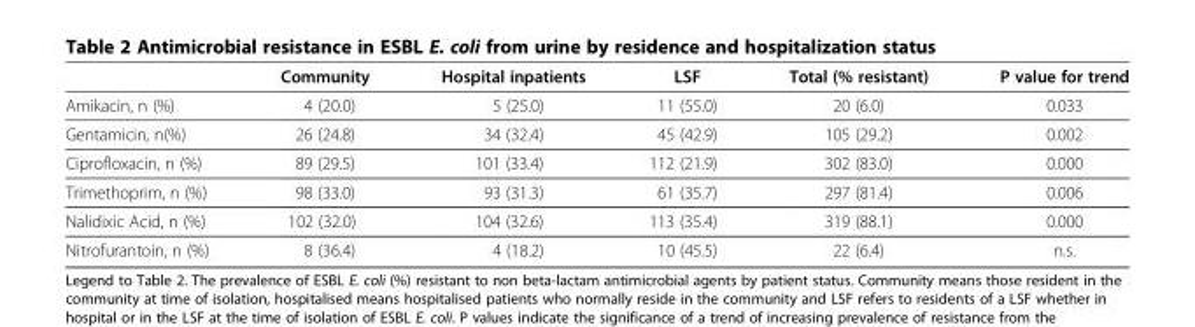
<table><thead><tr><td></td><td>Community</td><td>Hospital inpatients</td><td>LSF</td><td>Total (% resistant)</td><td>P value for trend</td></tr></thead><tbody><tr><td>Amikacin, n (%)</td><td>4 (20.0)</td><td>5 (25.0)</td><td>11 (55.0)</td><td>20 (6.0)</td><td>0.033</td></tr><tr><td>Gentamicin, n(%)</td><td>26 (24.8)</td><td>34 (32.4)</td><td>45 (42.9)</td><td>105 (29.2)</td><td>0.002</td></tr><tr><td>Ciprofloxacin, n (%)</td><td>89 (29.5)</td><td>101 (33.4)</td><td>112 (21.9)</td><td>302 (83.0)</td><td>0.000</td></tr><tr><td>Trimethoprim, n (%)</td><td>98 (33.0)</td><td>93 (31.3)</td><td>61 (35.7)</td><td>297 (81.4)</td><td>0.006</td></tr><tr><td>Nalidixic Acid, n (%)</td><td>102 (32.0)</td><td>104 (32.6)</td><td>113 (35.4)</td><td>319 (88.1)</td><td>0.000</td></tr><tr><td>Nitrofurantoin, n (%)</td><td>8 (36.4)</td><td>4 (18.2)</td><td>10 (45.5)</td><td>22 (6.4)</td><td>n.s.</td></tr></tbody></table>